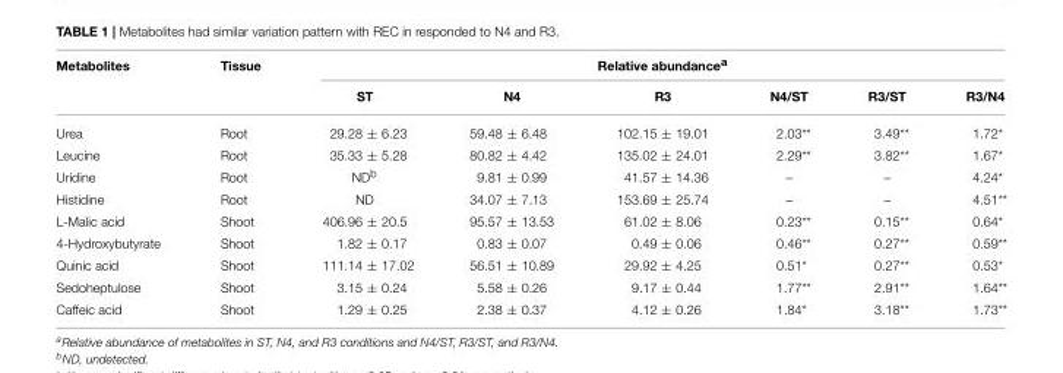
<table><thead><tr><td rowspan="2">Metabolites</td><td rowspan="2">Tissue</td><td colspan="6">Relative abundance<sup>a</sup></td></tr><tr><td>ST</td><td>N4</td><td>R3</td><td>N4/ST</td><td>R3/ST</td><td>R3/N4</td></tr></thead><tbody><tr><td>Urea</td><td>Root</td><td>29.28 ± 6.23</td><td>59.48 ± 6.48</td><td>102.15 ± 19.01</td><td>2.03**</td><td>3.49**</td><td>1.72*</td></tr><tr><td>Leucine</td><td>Root</td><td>35.33 ± 5.28</td><td>80.82 ± 4.42</td><td>135.02 ± 24.01</td><td>2.29**</td><td>3.82**</td><td>1.67*</td></tr><tr><td>Uridine</td><td>Root</td><td>ND<sup>b</sup></td><td>9.81 ± 0.99</td><td>41.57 ± 14.36</td><td>–</td><td>–</td><td>4.24*</td></tr><tr><td>Histidine</td><td>Root</td><td>ND</td><td>34.07 ± 7.13</td><td>153.69 ± 25.74</td><td>–</td><td>–</td><td>4.51**</td></tr><tr><td>L-Malic acid</td><td>Shoot</td><td>406.96 ± 20.5</td><td>95.57 ± 13.53</td><td>61.02 ± 8.06</td><td>0.23**</td><td>0.15**</td><td>0.64*</td></tr><tr><td>4-Hydroxybutyrate</td><td>Shoot</td><td>1.82 ± 0.17</td><td>0.83 ± 0.07</td><td>0.49 ± 0.06</td><td>0.46**</td><td>0.27**</td><td>0.59**</td></tr><tr><td>Quinic acid</td><td>Shoot</td><td>111.14 ± 17.02</td><td>56.51 ± 10.89</td><td>29.92 ± 4.25</td><td>0.51*</td><td>0.27**</td><td>0.53*</td></tr><tr><td>Sedoheptulose</td><td>Shoot</td><td>3.15 ± 0.24</td><td>5.58 ± 0.26</td><td>9.17 ± 0.44</td><td>1.77**</td><td>2.91**</td><td>1.64**</td></tr><tr><td>Caffeic acid</td><td>Shoot</td><td>1.29 ± 0.25</td><td>2.38 ± 0.37</td><td>4.12 ± 0.26</td><td>1.84*</td><td>3.18**</td><td>1.73**</td></tr></tbody></table>